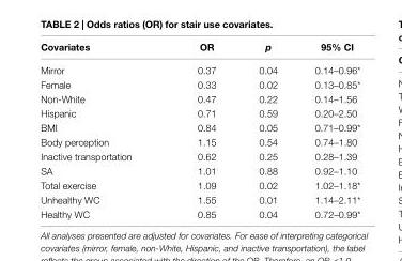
<table><thead><tr><td>covariates</td><td>Or</td><td>p</td><td>95% ci</td></tr></thead><tbody><tr><td>Mirror</td><td>0.37</td><td>0.04</td><td>0.14–0.96*</td></tr><tr><td>Female</td><td>0.33</td><td>0.02</td><td>0.13–0.85*</td></tr><tr><td>Non-White</td><td>0.47</td><td>0.22</td><td>0.14–1.56</td></tr><tr><td>Hispanic</td><td>0.71</td><td>0.59</td><td>0.20–2.50</td></tr><tr><td>BMI</td><td>0.84</td><td>0.05</td><td>0.71–0.99*</td></tr><tr><td>Body perception</td><td>1.15</td><td>0.54</td><td>0.74–1.80</td></tr><tr><td>Inactive transportation</td><td>0.62</td><td>0.25</td><td>0.28–1.39</td></tr><tr><td>SA</td><td>1.01</td><td>0.88</td><td>0.92–1.10</td></tr><tr><td>Total exercise</td><td>1.09</td><td>0.02</td><td>1.02–1.18*</td></tr><tr><td>Unhealthy WC</td><td>1.55</td><td>0.01</td><td>1.14–2.11*</td></tr><tr><td>Healthy WC</td><td>0.85</td><td>0.04</td><td>0.72–0.99*</td></tr></tbody></table>